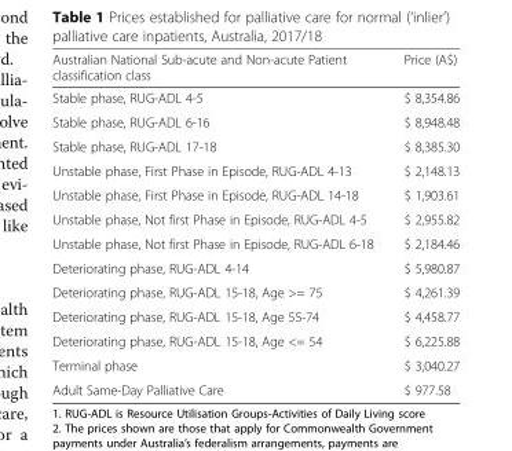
<table><thead><tr><td>Australian National Sub-acute and Non-acute Patient classification class</td><td>Price (A$)</td></tr></thead><tbody><tr><td>Stable phase, RUG-ADL 4-5</td><td>$ 8,354.86</td></tr><tr><td>Stable phase, RUG-ADL 6-16</td><td>$ 8,948.48</td></tr><tr><td>Stable phase, RUG-ADL 17-18</td><td>$ 8,385.30</td></tr><tr><td>Unstable phase, First Phase in Episode, RUG-ADL 4-13</td><td>$ 2,148.13</td></tr><tr><td>Unstable phase, First Phase in Episode, RUG-ADL 14-18</td><td>$ 1,903.61</td></tr><tr><td>Unstable phase, Not first Phase in Episode, RUG-ADL 4-5</td><td>$ 2,955.82</td></tr><tr><td>Unstable phase, Not first Phase in Episode, RUG-ADL 6-18</td><td>$ 2,184.46</td></tr><tr><td>Deteriorating phase, RUG-ADL 4-14</td><td>$ 5,980.87</td></tr><tr><td>Deteriorating phase, RUG-ADL 15-18, Age &gt;= 75</td><td>$ 4,261.39</td></tr><tr><td>Deteriorating phase, RUG-ADL 15-18, Age 55-74</td><td>$ 4,458.77</td></tr><tr><td>Deteriorating phase, RUG-ADL 15-18, Age &lt;= 54</td><td>$ 6,225.88</td></tr><tr><td>Terminal phase</td><td>$ 3,040.27</td></tr><tr><td>Adult Same-Day Palliative Care</td><td>$ 977.58</td></tr></tbody></table>